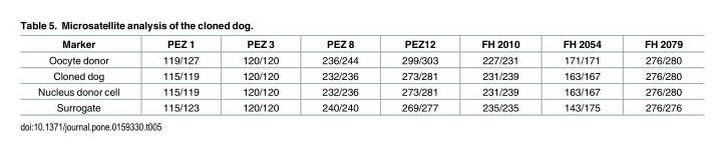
<table><thead><tr><td>Marker</td><td>PEZ 1</td><td>PEZ 3</td><td>PEZ 8</td><td>PEZ12</td><td>FH 2010</td><td>FH 2054</td><td>FH 2079</td></tr></thead><tbody><tr><td>Oocyte donor</td><td>119/127</td><td>120/120</td><td>236/244</td><td>299/303</td><td>227/231</td><td>171/171</td><td>276/280</td></tr><tr><td>Cloned dog</td><td>115/119</td><td>120/120</td><td>232/236</td><td>273/281</td><td>231/239</td><td>163/167</td><td>276/280</td></tr><tr><td>Nucleus donor cell</td><td>115/119</td><td>120/120</td><td>232/236</td><td>273/281</td><td>231/239</td><td>163/167</td><td>276/280</td></tr><tr><td>Surrogate</td><td>115/123</td><td>120/120</td><td>240/240</td><td>269/277</td><td>235/235</td><td>143/175</td><td>276/276</td></tr></tbody></table>